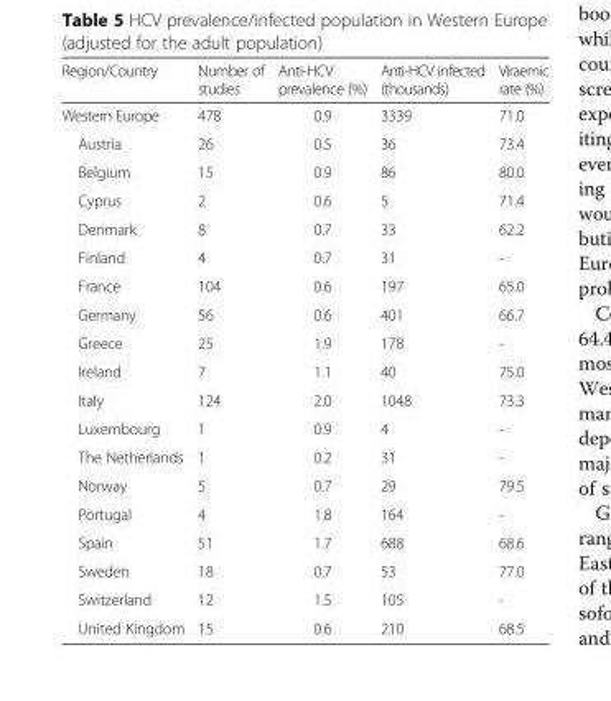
<table><thead><tr><td>Region/Country</td><td>Number of studies</td><td>Anti-HCV prevalence (%)</td><td>Anti-HCV infected (thousands)</td><td>Viraemic rate (%)</td></tr></thead><tbody><tr><td>Western Europe</td><td>478</td><td>0.9</td><td>3339</td><td>71.0</td></tr><tr><td>Austria</td><td>26</td><td>0.5</td><td>36</td><td>73.4</td></tr><tr><td>Belgium</td><td>15</td><td>0.9</td><td>86</td><td>80.0</td></tr><tr><td>Cyprus</td><td>2</td><td>0.6</td><td>5</td><td>71.4</td></tr><tr><td>Denmark</td><td>8</td><td>0.7</td><td>33</td><td>62.2</td></tr><tr><td>Finland</td><td>4</td><td>0.7</td><td>31</td><td>-</td></tr><tr><td>France</td><td>104</td><td>0.6</td><td>197</td><td>65.0</td></tr><tr><td>Germany</td><td>56</td><td>0.6</td><td>401</td><td>66.7</td></tr><tr><td>Greece</td><td>25</td><td>1.9</td><td>178</td><td>-</td></tr><tr><td>Ireland</td><td>7</td><td>1.1</td><td>40</td><td>75.0</td></tr><tr><td>Italy</td><td>124</td><td>2.0</td><td>1048</td><td>73.3</td></tr><tr><td>Luxembourg</td><td>1</td><td>0.9</td><td>4</td><td>-</td></tr><tr><td>The Netherlands</td><td>1</td><td>0.2</td><td>31</td><td>-</td></tr><tr><td>Norway</td><td>5</td><td>0.7</td><td>29</td><td>79.5</td></tr><tr><td>Portugal</td><td>4</td><td>1.8</td><td>164</td><td>-</td></tr><tr><td>Spain</td><td>51</td><td>1.7</td><td>688</td><td>68.6</td></tr><tr><td>Sweden</td><td>18</td><td>0.7</td><td>53</td><td>77.0</td></tr><tr><td>Switzerland</td><td>12</td><td>1.5</td><td>105</td><td>-</td></tr><tr><td>United Kingdom</td><td>15</td><td>0.6</td><td>210</td><td>68.5</td></tr></tbody></table>